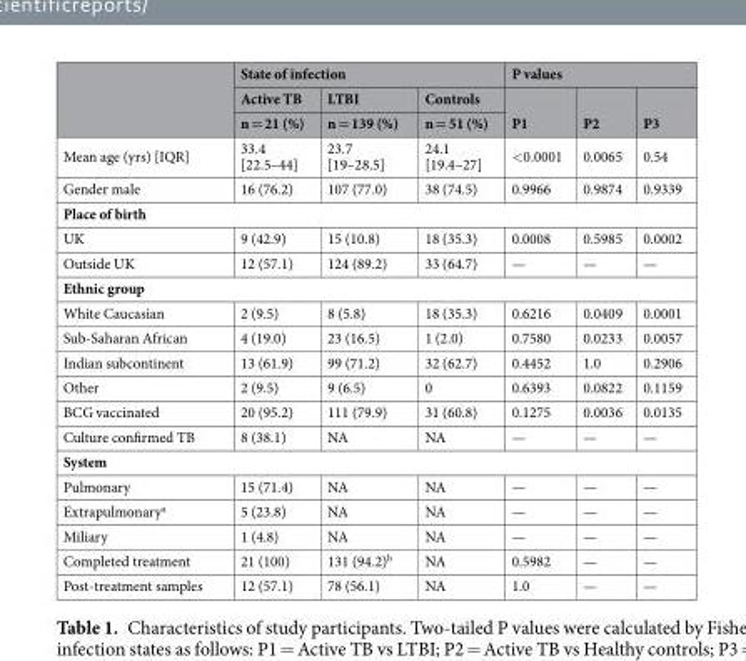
<table><thead><tr><td rowspan="3"></td><td colspan="3">State of infection</td><td colspan="3">P values</td></tr><tr><td rowspan="2">Active TB n = 21 (%)</td><td rowspan="2">LTBI n = 139 (%)</td><td rowspan="2">Controls n = 51 (%)</td><td rowspan="2">P1</td><td rowspan="2">P2</td><td rowspan="2">P3</td></tr><tr></tr></thead><tbody><tr><td>Mean age (yrs) [IQR]</td><td>33.4 [22.5–44]</td><td>23.7 [19–28.5]</td><td>24.1 [19.4–27]</td><td>&lt;0.0001</td><td>0.0065</td><td>0.54</td></tr><tr><td>Gender male</td><td>16 (76.2)</td><td>107 (77.0)</td><td>38 (74.5)</td><td>0.9966</td><td>0.9874</td><td>0.9339</td></tr><tr><td colspan="7">Place of birth</td></tr><tr><td>UK</td><td>9 (42.9)</td><td>15 (10.8)</td><td>18 (35.3)</td><td>0.0008</td><td>0.5985</td><td>0.0002</td></tr><tr><td>Outside UK</td><td>12 (57.1)</td><td>124 (89.2)</td><td>33 (64.7)</td><td>—</td><td>—</td><td>—</td></tr><tr><td colspan="7">Ethnic group</td></tr><tr><td>White Caucasian</td><td>2 (9.5)</td><td>8 (5.8)</td><td>18 (35.3)</td><td>0.6216</td><td>0.0409</td><td>0.0001</td></tr><tr><td>Sub-Saharan African</td><td>4 (19.0)</td><td>23 (16.5)</td><td>1 (2.0)</td><td>0.7580</td><td>0.0233</td><td>0.0057</td></tr><tr><td>Indian subcontinent</td><td>13 (61.9)</td><td>99 (71.2)</td><td>32 (62.7)</td><td>0.4452</td><td>1.0</td><td>0.2906</td></tr><tr><td>Other</td><td>2 (9.5)</td><td>9 (6.5)</td><td>0</td><td>0.6393</td><td>0.0822</td><td>0.1159</td></tr><tr><td>BCG vaccinated</td><td>20 (95.2)</td><td>111 (79.9)</td><td>31 (60.8)</td><td>0.1275</td><td>0.0036</td><td>0.0135</td></tr><tr><td>Culture confirmed TB</td><td>8 (38.1)</td><td>NA</td><td>NA</td><td>—</td><td>—</td><td>—</td></tr><tr><td colspan="7">System</td></tr><tr><td>Pulmonary</td><td>15 (71.4)</td><td>NA</td><td>NA</td><td>—</td><td>—</td><td>—</td></tr><tr><td>Extrapulmonary<sup>a</sup></td><td>5 (23.8)</td><td>NA</td><td>NA</td><td>—</td><td>—</td><td>—</td></tr><tr><td>Miliary</td><td>1 (4.8)</td><td>NA</td><td>NA</td><td>—</td><td>—</td><td>—</td></tr><tr><td>Completed treatment</td><td>21 (100)</td><td>131 (94.2)<sup>b</sup></td><td>NA</td><td>0.5982</td><td>—</td><td>—</td></tr><tr><td>Post-treatment samples</td><td>12 (57.1)</td><td>78 (56.1)</td><td>NA</td><td>1.0</td><td>—</td><td>—</td></tr></tbody></table>